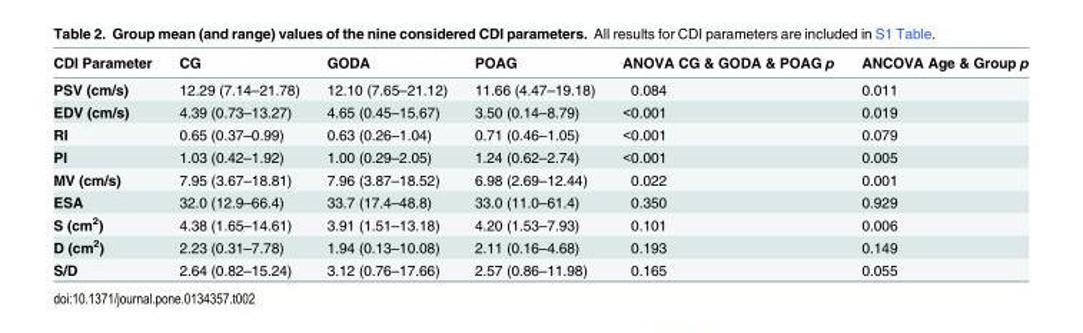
<table><thead><tr><td>CDI Parameter</td><td>CG</td><td>GODA</td><td>POAG</td><td>ANOVA CG &amp; GODA &amp; POAG p</td><td>ANCOVA Age &amp; Group p</td></tr></thead><tbody><tr><td>PSV (cm/s)</td><td>12.29 (7.14–21.78)</td><td>12.10 (7.65–21.12)</td><td>11.66 (4.47–19.18)</td><td>0.084</td><td>0.011</td></tr><tr><td>EDV (cm/s)</td><td>4.39 (0.73–13.27)</td><td>4.65 (0.45–15.67)</td><td>3.50 (0.14–8.79)</td><td>&lt;0.001</td><td>0.019</td></tr><tr><td>RI</td><td>0.65 (0.37–0.99)</td><td>0.63 (0.26–1.04)</td><td>0.71 (0.46–1.05)</td><td>&lt;0.001</td><td>0.079</td></tr><tr><td>PI</td><td>1.03 (0.42–1.92)</td><td>1.00 (0.29–2.05)</td><td>1.24 (0.62–2.74)</td><td>&lt;0.001</td><td>0.005</td></tr><tr><td>MV (cm/s)</td><td>7.95 (3.67–18.81)</td><td>7.96 (3.87–18.52)</td><td>6.98 (2.69–12.44)</td><td>0.022</td><td>0.001</td></tr><tr><td>ESA</td><td>32.0 (12.9–66.4)</td><td>33.7 (17.4–48.8)</td><td>33.0 (11.0–61.4)</td><td>0.350</td><td>0.929</td></tr><tr><td>S (cm<sup>2</sup>)</td><td>4.38 (1.65–14.61)</td><td>3.91 (1.51–13.18)</td><td>4.20 (1.53–7.93)</td><td>0.101</td><td>0.006</td></tr><tr><td>D (cm<sup>2</sup>)</td><td>2.23 (0.31–7.78)</td><td>1.94 (0.13–10.08)</td><td>2.11 (0.16–4.68)</td><td>0.193</td><td>0.149</td></tr><tr><td>S/D</td><td>2.64 (0.82–15.24)</td><td>3.12 (0.76–17.66)</td><td>2.57 (0.86–11.98)</td><td>0.165</td><td>0.055</td></tr></tbody></table>